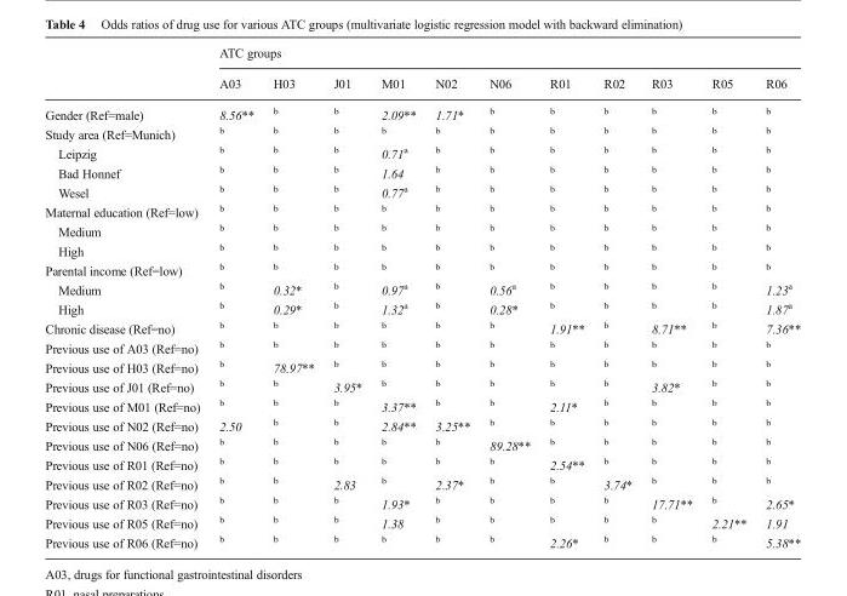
<table><thead><tr><td rowspan="2"></td><td colspan="11">ATC groups</td></tr><tr><td>A03</td><td>H03</td><td>J01</td><td>M01</td><td>N02</td><td>N06</td><td>R01</td><td>R02</td><td>R03</td><td>R05</td><td>R06</td></tr></thead><tbody><tr><td>Gender (Ref=male)</td><td>8.56**</td><td><sup>b</sup></td><td><sup>b</sup></td><td>2.09**</td><td>1.71*</td><td><sup>b</sup></td><td><sup>b</sup></td><td><sup>b</sup></td><td><sup>b</sup></td><td><sup>b</sup></td><td><sup>b</sup></td></tr><tr><td>Study area (Ref=Munich)</td><td><sup>b</sup></td><td><sup>b</sup></td><td><sup>b</sup></td><td><sup>b</sup></td><td><sup>b</sup></td><td><sup>b</sup></td><td><sup>b</sup></td><td><sup>b</sup></td><td><sup>b</sup></td><td><sup>b</sup></td><td><sup>b</sup></td></tr><tr><td>Leipzig</td><td><sup>b</sup></td><td><sup>b</sup></td><td><sup>b</sup></td><td>0.71<sup>a</sup></td><td><sup>b</sup></td><td><sup>b</sup></td><td><sup>b</sup></td><td><sup>b</sup></td><td><sup>b</sup></td><td><sup>b</sup></td><td><sup>b</sup></td></tr><tr><td>Bad Honnef</td><td><sup>b</sup></td><td><sup>b</sup></td><td><sup>b</sup></td><td>1.64</td><td><sup>b</sup></td><td><sup>b</sup></td><td><sup>b</sup></td><td><sup>b</sup></td><td><sup>b</sup></td><td><sup>b</sup></td><td><sup>b</sup></td></tr><tr><td>Wesel</td><td><sup>b</sup></td><td><sup>b</sup></td><td><sup>b</sup></td><td>0.77<sup>a</sup></td><td><sup>b</sup></td><td><sup>b</sup></td><td><sup>b</sup></td><td><sup>b</sup></td><td><sup>b</sup></td><td><sup>b</sup></td><td><sup>b</sup></td></tr><tr><td>Maternal education (Ref=low)</td><td><sup>b</sup></td><td><sup>b</sup></td><td><sup>b</sup></td><td><sup>b</sup></td><td><sup>b</sup></td><td><sup>b</sup></td><td><sup>b</sup></td><td><sup>b</sup></td><td><sup>b</sup></td><td><sup>b</sup></td><td><sup>b</sup></td></tr><tr><td>Medium</td><td><sup>b</sup></td><td><sup>b</sup></td><td><sup>b</sup></td><td><sup>b</sup></td><td><sup>b</sup></td><td><sup>b</sup></td><td><sup>b</sup></td><td><sup>b</sup></td><td><sup>b</sup></td><td><sup>b</sup></td><td><sup>b</sup></td></tr><tr><td>High</td><td><sup>b</sup></td><td><sup>b</sup></td><td><sup>b</sup></td><td><sup>b</sup></td><td><sup>b</sup></td><td><sup>b</sup></td><td><sup>b</sup></td><td><sup>b</sup></td><td><sup>b</sup></td><td><sup>b</sup></td><td><sup>b</sup></td></tr><tr><td>Parental income (Ref=low)</td><td><sup>b</sup></td><td><sup>b</sup></td><td><sup>b</sup></td><td><sup>b</sup></td><td><sup>b</sup></td><td><sup>b</sup></td><td><sup>b</sup></td><td><sup>b</sup></td><td><sup>b</sup></td><td><sup>b</sup></td><td><sup>b</sup></td></tr><tr><td>Medium</td><td><sup>b</sup></td><td>0.32*</td><td><sup>b</sup></td><td>0.97<sup>a</sup></td><td><sup>b</sup></td><td>0.56<sup>a</sup></td><td><sup>b</sup></td><td><sup>b</sup></td><td><sup>b</sup></td><td><sup>b</sup></td><td>1.23<sup>a</sup></td></tr><tr><td>High</td><td><sup>b</sup></td><td>0.29*</td><td><sup>b</sup></td><td>1.32<sup>a</sup></td><td><sup>b</sup></td><td>0.28*</td><td><sup>b</sup></td><td><sup>b</sup></td><td><sup>b</sup></td><td><sup>b</sup></td><td>1.87<sup>a</sup></td></tr><tr><td>Chronic disease (Ref=no)</td><td><sup>b</sup></td><td><sup>b</sup></td><td><sup>b</sup></td><td><sup>b</sup></td><td><sup>b</sup></td><td><sup>b</sup></td><td>1.91**</td><td><sup>b</sup></td><td>8.71**</td><td><sup>b</sup></td><td>7.36**</td></tr><tr><td>Previous use of A03 (Ref=no)</td><td><sup>b</sup></td><td><sup>b</sup></td><td><sup>b</sup></td><td><sup>b</sup></td><td><sup>b</sup></td><td><sup>b</sup></td><td><sup>b</sup></td><td><sup>b</sup></td><td><sup>b</sup></td><td><sup>b</sup></td><td><sup>b</sup></td></tr><tr><td>Previous use of H03 (Ref=no)</td><td><sup>b</sup></td><td>78.97**</td><td><sup>b</sup></td><td><sup>b</sup></td><td><sup>b</sup></td><td><sup>b</sup></td><td><sup>b</sup></td><td><sup>b</sup></td><td><sup>b</sup></td><td><sup>b</sup></td><td><sup>b</sup></td></tr><tr><td>Previous use of J01 (Ref=no)</td><td><sup>b</sup></td><td><sup>b</sup></td><td>3.95*</td><td><sup>b</sup></td><td><sup>b</sup></td><td><sup>b</sup></td><td><sup>b</sup></td><td><sup>b</sup></td><td>3.82*</td><td><sup>b</sup></td><td><sup>b</sup></td></tr><tr><td>Previous use of M01 (Ref=no)</td><td><sup>b</sup></td><td><sup>b</sup></td><td><sup>b</sup></td><td>3.37**</td><td><sup>b</sup></td><td><sup>b</sup></td><td>2.11*</td><td><sup>b</sup></td><td><sup>b</sup></td><td><sup>b</sup></td><td><sup>b</sup></td></tr><tr><td>Previous use of N02 (Ref=no)</td><td>2.50</td><td><sup>b</sup></td><td><sup>b</sup></td><td>2.84**</td><td>3.25**</td><td><sup>b</sup></td><td><sup>b</sup></td><td><sup>b</sup></td><td><sup>b</sup></td><td><sup>b</sup></td><td><sup>b</sup></td></tr><tr><td>Previous use of N06 (Ref=no)</td><td><sup>b</sup></td><td><sup>b</sup></td><td><sup>b</sup></td><td><sup>b</sup></td><td><sup>b</sup></td><td>89.28**</td><td><sup>b</sup></td><td><sup>b</sup></td><td><sup>b</sup></td><td><sup>b</sup></td><td><sup>b</sup></td></tr><tr><td>Previous use of R01 (Ref=no)</td><td><sup>b</sup></td><td><sup>b</sup></td><td><sup>b</sup></td><td><sup>b</sup></td><td><sup>b</sup></td><td><sup>b</sup></td><td>2.54**</td><td><sup>b</sup></td><td><sup>b</sup></td><td><sup>b</sup></td><td><sup>b</sup></td></tr><tr><td>Previous use of R02 (Ref=no)</td><td><sup>b</sup></td><td><sup>b</sup></td><td>2.83</td><td><sup>b</sup></td><td>2.37*</td><td><sup>b</sup></td><td><sup>b</sup></td><td>3.74*</td><td><sup>b</sup></td><td><sup>b</sup></td><td><sup>b</sup></td></tr><tr><td>Previous use of R03 (Ref=no)</td><td><sup>b</sup></td><td><sup>b</sup></td><td><sup>b</sup></td><td>1.93*</td><td><sup>b</sup></td><td><sup>b</sup></td><td><sup>b</sup></td><td><sup>b</sup></td><td>17.71**</td><td><sup>b</sup></td><td>2.65*</td></tr><tr><td>Previous use of R05 (Ref=no)</td><td><sup>b</sup></td><td><sup>b</sup></td><td><sup>b</sup></td><td>1.38</td><td><sup>b</sup></td><td><sup>b</sup></td><td><sup>b</sup></td><td><sup>b</sup></td><td><sup>b</sup></td><td>2.21**</td><td>1.91</td></tr><tr><td>Previous use of R06 (Ref=no)</td><td><sup>b</sup></td><td><sup>b</sup></td><td><sup>b</sup></td><td><sup>b</sup></td><td><sup>b</sup></td><td><sup>b</sup></td><td>2.26*</td><td><sup>b</sup></td><td><sup>b</sup></td><td><sup>b</sup></td><td>5.38**</td></tr></tbody></table>